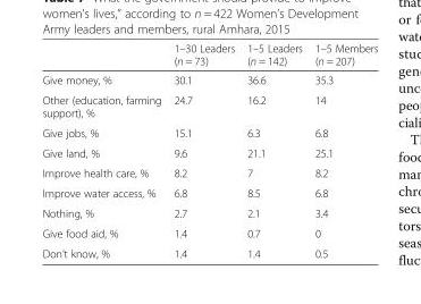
<table><thead><tr><td></td><td>1–30 Leaders (n = 73)</td><td>1–5 Leaders (n = 142)</td><td>1–5 Members (n = 207)</td></tr></thead><tbody><tr><td>Give money, %</td><td>30.1</td><td>36.6</td><td>35.3</td></tr><tr><td>Other (education, farming support), %</td><td>24.7</td><td>16.2</td><td>14</td></tr><tr><td>Give jobs, %</td><td>15.1</td><td>6.3</td><td>6.8</td></tr><tr><td>Give land, %</td><td>9.6</td><td>21.1</td><td>25.1</td></tr><tr><td>Improve health care, %</td><td>8.2</td><td>7</td><td>8.2</td></tr><tr><td>Improve water access, %</td><td>6.8</td><td>8.5</td><td>6.8</td></tr><tr><td>Nothing, %</td><td>2.7</td><td>2.1</td><td>3.4</td></tr><tr><td>Give food aid, %</td><td>1.4</td><td>0.7</td><td>0</td></tr><tr><td>Don’t know, %</td><td>1.4</td><td>1.4</td><td>0.5</td></tr></tbody></table>